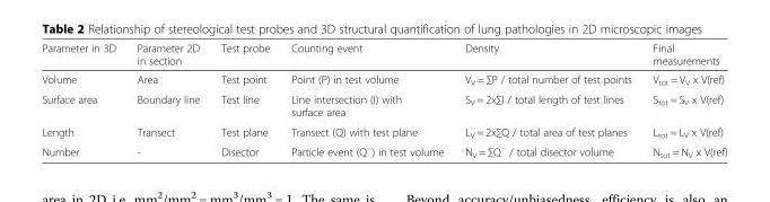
<table><thead><tr><td>Parameter in 3D</td><td>Parameter 2D in section</td><td>Test probe</td><td>Counting event</td><td>Density</td><td>Final measurements</td></tr></thead><tbody><tr><td>Volume</td><td>Area</td><td>Test point</td><td>Point (P) in test volume</td><td>V<sub>V</sub> = ∑P / total number of test points</td><td>V<sub>tot</sub> = V<sub>V</sub> x V(ref)</td></tr><tr><td>Surface area</td><td>Boundary line</td><td>Test line</td><td>Line intersection (I) with surface area</td><td>S<sub>V</sub> = 2x∑I / total length of test lines</td><td>S<sub>tot</sub> = S<sub>V</sub> x V(ref)</td></tr><tr><td>Length</td><td>Transect</td><td>Test plane</td><td>Transect (Q) with test plane</td><td>L<sub>V</sub> = 2x∑Q / total area of test planes</td><td>L<sub>tot</sub> = L<sub>V</sub> x V(ref)</td></tr><tr><td>Number</td><td>-</td><td>Disector</td><td>Particle event (Q<sup>−</sup>) in test volume</td><td>N<sub>V</sub> = ∑Q<sup>−</sup> / total disector volume</td><td>N<sub>tot</sub> = N<sub>V</sub> x V(ref)</td></tr></tbody></table>